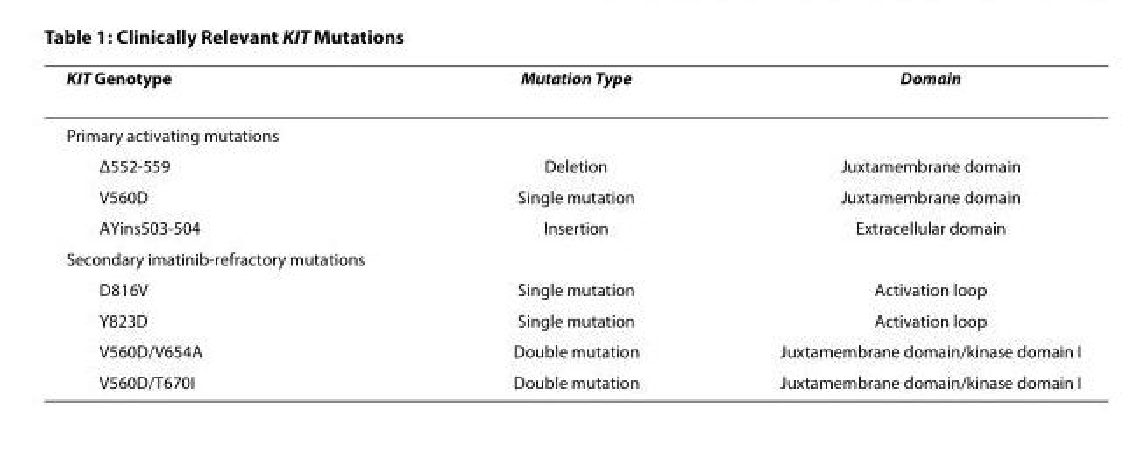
<table><thead><tr><td>KIT Genotype</td><td>Mutation Type</td><td>Domain</td></tr></thead><tbody><tr><td colspan="3">Primary activating mutations</td></tr><tr><td>Δ552-559</td><td>Deletion</td><td>Juxtamembrane domain</td></tr><tr><td>V560D</td><td>Single mutation</td><td>Juxtamembrane domain</td></tr><tr><td>AYins503-504</td><td>Insertion</td><td>Extracellular domain</td></tr><tr><td colspan="3">Secondary imatinib-refractory mutations</td></tr><tr><td>D816V</td><td>Single mutation</td><td>Activation loop</td></tr><tr><td>Y823D</td><td>Single mutation</td><td>Activation loop</td></tr><tr><td>V560D/V654A</td><td>Double mutation</td><td>Juxtamembrane domain/kinase domain I</td></tr><tr><td>V560D/T670I</td><td>Double mutation</td><td>Juxtamembrane domain/kinase domain I</td></tr></tbody></table>